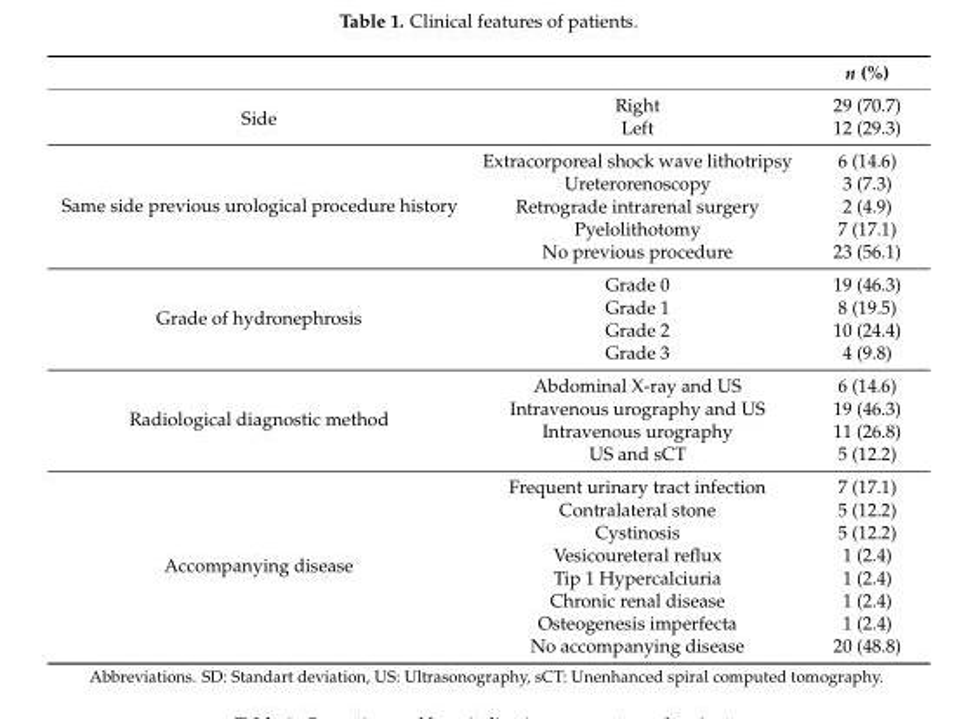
<table><thead><tr><td></td><td></td><td>n (%)</td></tr></thead><tbody><tr><td rowspan="2">Side</td><td>Right</td><td>29 (70.7)</td></tr><tr><td>Left</td><td>12 (29.3)</td></tr><tr><td rowspan="5">Same side previous urological procedure history</td><td>Extracorporeal shock wave lithotripsy</td><td>6 (14.6)</td></tr><tr><td>Ureterorenoscopy</td><td>3 (7.3)</td></tr><tr><td>Retrograde intrarenal surgery</td><td>2 (4.9)</td></tr><tr><td>Pyelolithotomy</td><td>7 (17.1)</td></tr><tr><td>No previous procedure</td><td>23 (56.1)</td></tr><tr><td rowspan="4">Grade of hydronephrosis</td><td>Grade 0</td><td>19 (46.3)</td></tr><tr><td>Grade 1</td><td>8 (19.5)</td></tr><tr><td>Grade 2</td><td>10 (24.4)</td></tr><tr><td>Grade 3</td><td>4 (9.8)</td></tr><tr><td rowspan="4">Radiological diagnostic method</td><td>Abdominal X-ray and US</td><td>6 (14.6)</td></tr><tr><td>Intravenous urography and US</td><td>19 (46.3)</td></tr><tr><td>Intravenous urography</td><td>11 (26.8)</td></tr><tr><td>US and sCT</td><td>5 (12.2)</td></tr><tr><td rowspan="8">Accompanying disease</td><td>Frequent urinary tract infection</td><td>7 (17.1)</td></tr><tr><td>Contralateral stone</td><td>5 (12.2)</td></tr><tr><td>Cystinosis</td><td>5 (12.2)</td></tr><tr><td>Vesicoureteral reflux</td><td>1 (2.4)</td></tr><tr><td>Tip 1 Hypercalciuria</td><td>1 (2.4)</td></tr><tr><td>Chronic renal disease</td><td>1 (2.4)</td></tr><tr><td>Osteogenesis imperfecta</td><td>1 (2.4)</td></tr><tr><td>No accompanying disease</td><td>20 (48.8)</td></tr></tbody></table>